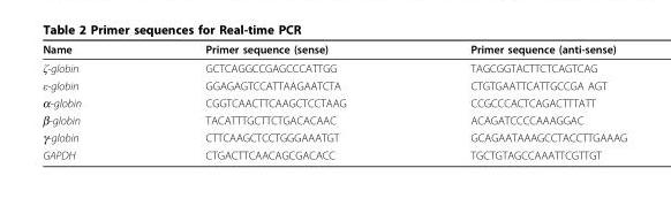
<table><thead><tr><td>Name</td><td>Primer sequence (sense)</td><td>Primer sequence (anti-sense)</td></tr></thead><tbody><tr><td>ζ-globin</td><td>GCTCAGGCCGAGCCCATTGG</td><td>TAGCGGTACTTCTCAGTCAG</td></tr><tr><td>ε-globin</td><td>GGAGAGTCCATTAAGAATCTA</td><td>CTGTGAATTCATTGCCGA AGT</td></tr><tr><td>α-globin</td><td>CGGTCAACTTCAAGCTCCTAAG</td><td>CCGCCCACTCAGACTTTATT</td></tr><tr><td>β-globin</td><td>TACATTTGCTTCTGACACAAC</td><td>ACAGATCCCCAAAGGAC</td></tr><tr><td>γ-globin</td><td>CTTCAAGCTCCTGGGAAATGT</td><td>GCAGAATAAAGCCTACCTTGAAAG</td></tr><tr><td>GAPDH</td><td>CTGACTTCAACAGCGACACC</td><td>TGCTGTAGCCAAATTCGTTGT</td></tr></tbody></table>